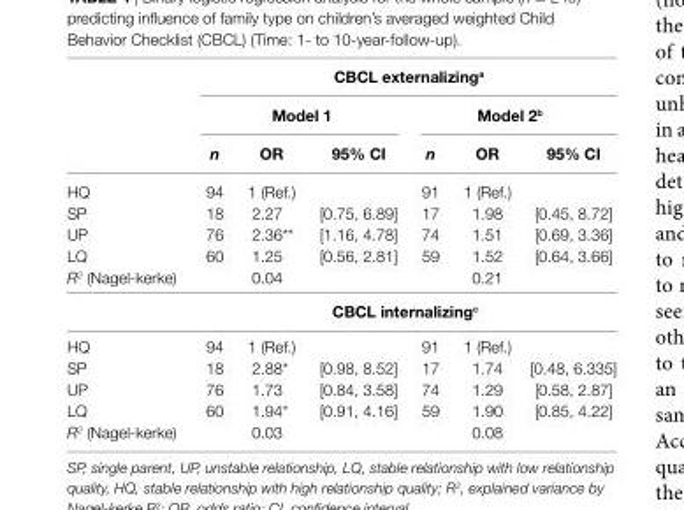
<table><thead><tr><td rowspan="3"></td><td colspan="6">cbcl externalizing<sup>a</sup></td></tr><tr><td colspan="3">Model 1</td><td colspan="3">Model 2<sup>b</sup></td></tr><tr><td>n</td><td>Or</td><td>95% ci</td><td>n</td><td>Or</td><td>95% ci</td></tr></thead><tbody><tr><td>HQ</td><td>94</td><td>1 (Ref.)</td><td></td><td>91</td><td>1 (Ref.)</td><td></td></tr><tr><td>SP</td><td>18</td><td>2.27</td><td>[0.75, 6.89]</td><td>17</td><td>1.98</td><td>[0.45, 8.72]</td></tr><tr><td>UP</td><td>76</td><td>2.36**</td><td>[1.16, 4.78]</td><td>74</td><td>1.51</td><td>[0.69, 3.36]</td></tr><tr><td>LQ</td><td>60</td><td>1.25</td><td>[0.56, 2.81]</td><td>59</td><td>1.52</td><td>[0.64, 3.66]</td></tr><tr><td>R<sup>2</sup> (Nagel-kerke)</td><td></td><td>0.04</td><td></td><td></td><td>0.21</td><td></td></tr><tr><td colspan="7">cbcl internalizing<sup>c</sup></td></tr><tr><td>HQ</td><td>94</td><td>1 (Ref.)</td><td></td><td>91</td><td>1 (Ref.)</td><td></td></tr><tr><td>SP</td><td>18</td><td>2.88*</td><td>[0.98, 8.52]</td><td>17</td><td>1.74</td><td>[0.48, 6.335]</td></tr><tr><td>UP</td><td>76</td><td>1.73</td><td>[0.84, 3.58]</td><td>74</td><td>1.29</td><td>[0.58, 2.87]</td></tr><tr><td>LQ</td><td>60</td><td>1.94*</td><td>[0.91, 4.16]</td><td>59</td><td>1.90</td><td>[0.85, 4.22]</td></tr><tr><td>R<sup>2</sup> (Nagel-kerke)</td><td></td><td>0.03</td><td></td><td></td><td>0.08</td><td></td></tr></tbody></table>